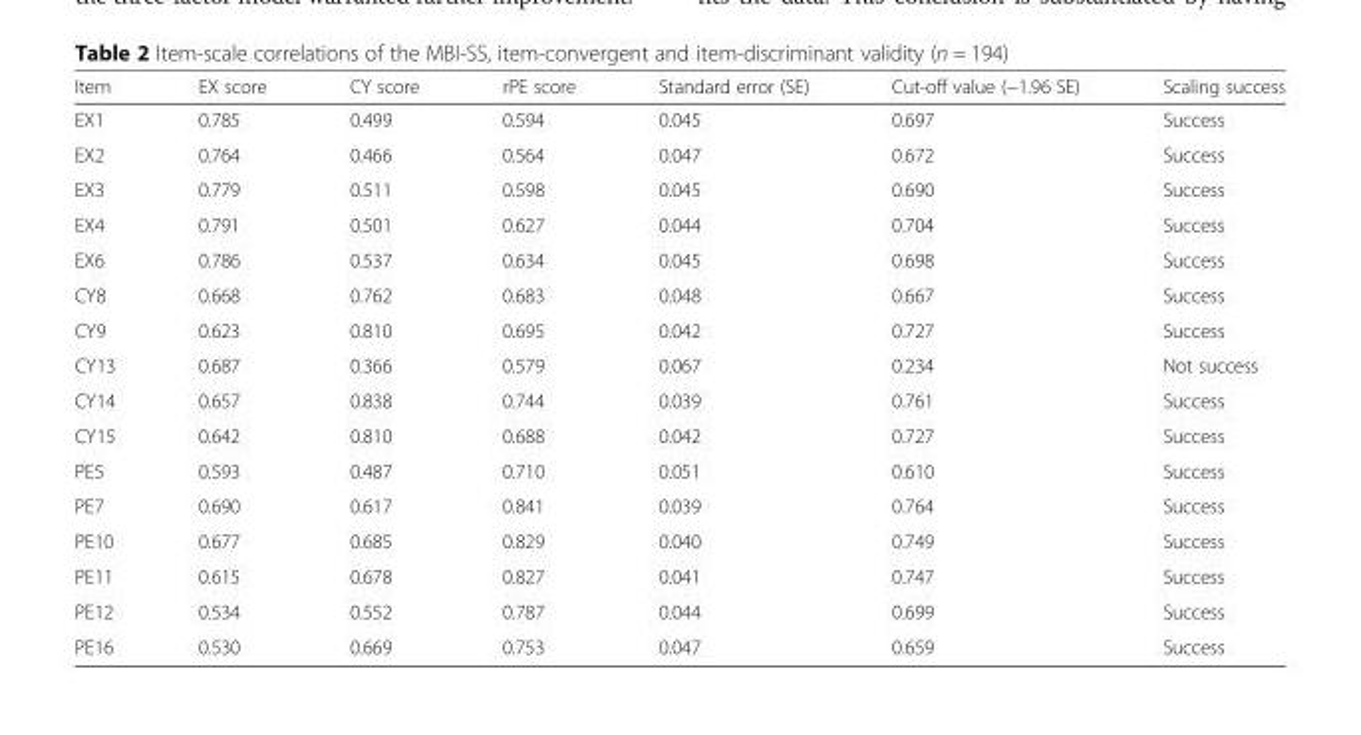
<table><thead><tr><td>Item</td><td>EX score</td><td>CY score</td><td>rPE score</td><td>Standard error (SE)</td><td>Cut-off value (−1.96 SE)</td><td>Scaling success</td></tr></thead><tbody><tr><td>EX1</td><td>0.785</td><td>0.499</td><td>0.594</td><td>0.045</td><td>0.697</td><td>Success</td></tr><tr><td>EX2</td><td>0.764</td><td>0.466</td><td>0.564</td><td>0.047</td><td>0.672</td><td>Success</td></tr><tr><td>EX3</td><td>0.779</td><td>0.511</td><td>0.598</td><td>0.045</td><td>0.690</td><td>Success</td></tr><tr><td>EX4</td><td>0.791</td><td>0.501</td><td>0.627</td><td>0.044</td><td>0.704</td><td>Success</td></tr><tr><td>EX6</td><td>0.786</td><td>0.537</td><td>0.634</td><td>0.045</td><td>0.698</td><td>Success</td></tr><tr><td>CY8</td><td>0.668</td><td>0.762</td><td>0.683</td><td>0.048</td><td>0.667</td><td>Success</td></tr><tr><td>CY9</td><td>0.623</td><td>0.810</td><td>0.695</td><td>0.042</td><td>0.727</td><td>Success</td></tr><tr><td>CY13</td><td>0.687</td><td>0.366</td><td>0.579</td><td>0.067</td><td>0.234</td><td>Not success</td></tr><tr><td>CY14</td><td>0.657</td><td>0.838</td><td>0.744</td><td>0.039</td><td>0.761</td><td>Success</td></tr><tr><td>CY15</td><td>0.642</td><td>0.810</td><td>0.688</td><td>0.042</td><td>0.727</td><td>Success</td></tr><tr><td>PE5</td><td>0.593</td><td>0.487</td><td>0.710</td><td>0.051</td><td>0.610</td><td>Success</td></tr><tr><td>PE7</td><td>0.690</td><td>0.617</td><td>0.841</td><td>0.039</td><td>0.764</td><td>Success</td></tr><tr><td>PE10</td><td>0.677</td><td>0.685</td><td>0.829</td><td>0.040</td><td>0.749</td><td>Success</td></tr><tr><td>PE11</td><td>0.615</td><td>0.678</td><td>0.827</td><td>0.041</td><td>0.747</td><td>Success</td></tr><tr><td>PE12</td><td>0.534</td><td>0.552</td><td>0.787</td><td>0.044</td><td>0.699</td><td>Success</td></tr><tr><td>PE16</td><td>0.530</td><td>0.669</td><td>0.753</td><td>0.047</td><td>0.659</td><td>Success</td></tr></tbody></table>